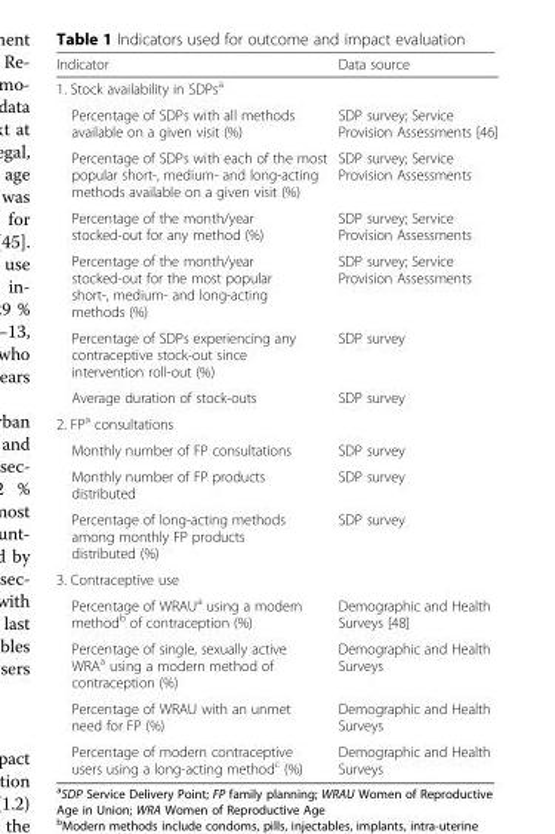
<table><thead><tr><td>Indicator</td><td>Data source</td></tr></thead><tbody><tr><td colspan="2">1. Stock availability in SDPs<sup>a</sup></td></tr><tr><td>Percentage of SDPs with all methods available on a given visit (%)</td><td>SDP survey; Service Provision Assessments [46]</td></tr><tr><td>Percentage of SDPs with each of the most popular short-, medium- and long-acting methods available on a given visit (%)</td><td>SDP survey; Service Provision Assessments</td></tr><tr><td>Percentage of the month/year stocked-out for any method (%)</td><td>SDP survey; Service Provision Assessments</td></tr><tr><td>Percentage of the month/year stocked-out for the most popular short-, medium- and long-acting methods (%)</td><td>SDP survey; Service Provision Assessments</td></tr><tr><td>Percentage of SDPs experiencing any contraceptive stock-out since intervention roll-out (%)</td><td>SDP survey</td></tr><tr><td>Average duration of stock-outs</td><td>SDP survey</td></tr><tr><td colspan="2">2. FP<sup>a</sup> consultations</td></tr><tr><td>Monthly number of FP consultations</td><td>SDP survey</td></tr><tr><td>Monthly number of FP products distributed</td><td>SDP survey</td></tr><tr><td>Percentage of long-acting methods among monthly FP products distributed (%)</td><td>SDP survey</td></tr><tr><td colspan="2">3. Contraceptive use</td></tr><tr><td>Percentage of WRAU<sup>a</sup> using a modern method<sup>b</sup> of contraception (%)</td><td>Demographic and Health Surveys [48]</td></tr><tr><td>Percentage of single, sexually active WRA<sup>a</sup> using a modern method of contraception (%)</td><td>Demographic and Health Surveys</td></tr><tr><td>Percentage of WRAU with an unmet need for FP (%)</td><td>Demographic and Health Surveys</td></tr><tr><td>Percentage of modern contraceptive users using a long-acting method<sup>c</sup> (%)</td><td>Demographic and Health Surveys</td></tr></tbody></table>